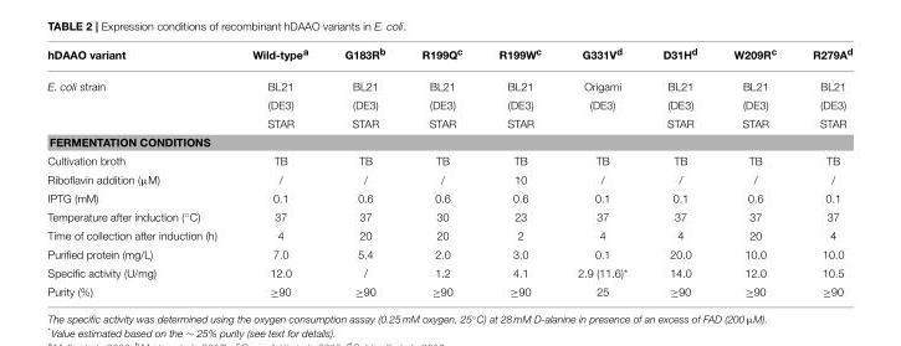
<table><thead><tr><td>hDAAO variant</td><td>Wild-type<sup>a</sup></td><td>G183R<sup>b</sup></td><td>R199Q<sup>c</sup></td><td>R199W<sup>c</sup></td><td>G331V<sup>d</sup></td><td>D31H<sup>d</sup></td><td>W209R<sup>c</sup></td><td>R279A<sup>d</sup></td></tr></thead><tbody><tr><td rowspan="3">E. coli strain</td><td>BL21</td><td>BL21</td><td>BL21</td><td>BL21</td><td>Origami</td><td>BL21</td><td>BL21</td><td>BL21</td></tr><tr><td>(DE3)</td><td>(DE3)</td><td>(DE3)</td><td>(DE3)</td><td>(DE3)</td><td>(DE3)</td><td>(DE3)</td><td>(DE3)</td></tr><tr><td>STAR</td><td>STAR</td><td>STAR</td><td>STAR</td><td></td><td>STAR</td><td>STAR</td><td>STAR</td></tr><tr><td colspan="9">FERMENTATION CONDITIONS</td></tr><tr><td>Cultivation broth</td><td>TB</td><td>TB</td><td>TB</td><td>TB</td><td>TB</td><td>TB</td><td>TB</td><td>TB</td></tr><tr><td>Riboflavin addition (µM)</td><td>/</td><td>/</td><td>/</td><td>10</td><td>/</td><td>/</td><td>/</td><td>/</td></tr><tr><td>IPTG (mM)</td><td>0.1</td><td>0.6</td><td>0.6</td><td>0.6</td><td>0.1</td><td>0.1</td><td>0.6</td><td>0.1</td></tr><tr><td>Temperature after induction (◦C)</td><td>37</td><td>37</td><td>30</td><td>23</td><td>37</td><td>37</td><td>37</td><td>37</td></tr><tr><td>Time of collection after induction (h)</td><td>4</td><td>20</td><td>20</td><td>2</td><td>4</td><td>4</td><td>20</td><td>4</td></tr><tr><td>Purified protein (mg/L)</td><td>7.0</td><td>5.4</td><td>2.0</td><td>3.0</td><td>0.1</td><td>20.0</td><td>10.0</td><td>10.0</td></tr><tr><td>Specific activity (U/mg)</td><td>12.0</td><td>/</td><td>1.2</td><td>4.1</td><td>2.9 (11.6)*</td><td>14.0</td><td>12.0</td><td>10.5</td></tr><tr><td>Purity (%)</td><td>≥90</td><td>≥90</td><td>≥90</td><td>≥90</td><td>25</td><td>≥90</td><td>≥90</td><td>≥90</td></tr></tbody></table>